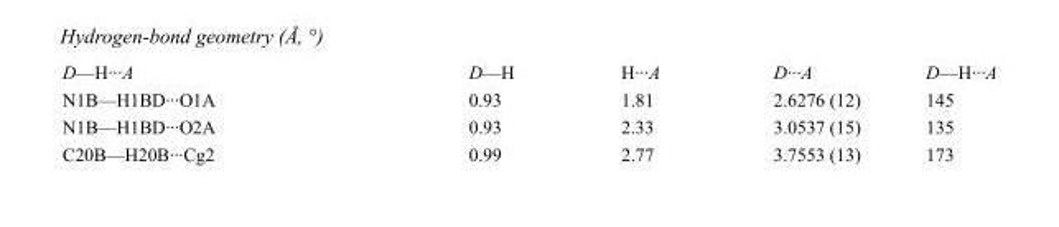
<table><tbody><tr><td>D—H···A</td><td>D—H</td><td>H···A</td><td>D···A</td><td>D—H···A</td></tr><tr><td>N1B—H1BD···O1A</td><td>0.93</td><td>1.81</td><td>2.6276 (12)</td><td>145</td></tr><tr><td>N1B—H1BD···O2A</td><td>0.93</td><td>2.33</td><td>3.0537 (15)</td><td>135</td></tr><tr><td>C20B—H20B···Cg2</td><td>0.99</td><td>2.77</td><td>3.7553 (13)</td><td>173</td></tr></tbody></table>